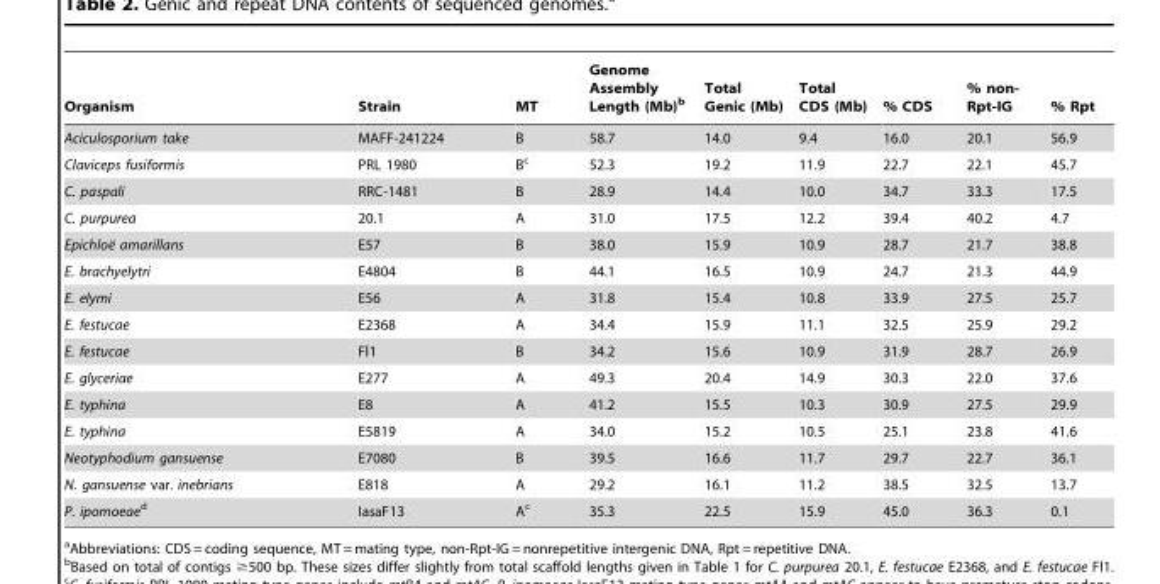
<table><thead><tr><td>Organism</td><td>Strain</td><td>MT</td><td>Genome Assembly Length (Mb)<sup>b</sup></td><td>Total Genic (Mb)</td><td>Total CDS (Mb)</td><td>% CDS</td><td>% non- Rpt-IG</td><td>% Rpt</td></tr></thead><tbody><tr><td>Aciculosporium take</td><td>MAFF-241224</td><td>B</td><td>58.7</td><td>14.0</td><td>9.4</td><td>16.0</td><td>20.1</td><td>56.9</td></tr><tr><td>Claviceps fusiformis</td><td>PRL 1980</td><td>B<sup>c</sup></td><td>52.3</td><td>19.2</td><td>11.9</td><td>22.7</td><td>22.1</td><td>45.7</td></tr><tr><td>C. paspali</td><td>RRC-1481</td><td>B</td><td>28.9</td><td>14.4</td><td>10.0</td><td>34.7</td><td>33.3</td><td>17.5</td></tr><tr><td>C. purpurea</td><td>20.1</td><td>A</td><td>31.0</td><td>17.5</td><td>12.2</td><td>39.4</td><td>40.2</td><td>4.7</td></tr><tr><td>Epichloe¨ amarillans</td><td>E57</td><td>B</td><td>38.0</td><td>15.9</td><td>10.9</td><td>28.7</td><td>21.7</td><td>38.8</td></tr><tr><td>E. brachyelytri</td><td>E4804</td><td>B</td><td>44.1</td><td>16.5</td><td>10.9</td><td>24.7</td><td>21.3</td><td>44.9</td></tr><tr><td>E. elymi</td><td>E56</td><td>A</td><td>31.8</td><td>15.4</td><td>10.8</td><td>33.9</td><td>27.5</td><td>25.7</td></tr><tr><td>E. festucae</td><td>E2368</td><td>A</td><td>34.4</td><td>15.9</td><td>11.1</td><td>32.5</td><td>25.9</td><td>29.2</td></tr><tr><td>E. festucae</td><td>Fl1</td><td>B</td><td>34.2</td><td>15.6</td><td>10.9</td><td>31.9</td><td>28.7</td><td>26.9</td></tr><tr><td>E. glyceriae</td><td>E277</td><td>A</td><td>49.3</td><td>20.4</td><td>14.9</td><td>30.3</td><td>22.0</td><td>37.6</td></tr><tr><td>E. typhina</td><td>E8</td><td>A</td><td>41.2</td><td>15.5</td><td>10.3</td><td>30.9</td><td>27.5</td><td>29.9</td></tr><tr><td>E. typhina</td><td>E5819</td><td>A</td><td>34.0</td><td>15.2</td><td>10.5</td><td>25.1</td><td>23.8</td><td>41.6</td></tr><tr><td>Neotyphodium gansuense</td><td>E7080</td><td>B</td><td>39.5</td><td>16.6</td><td>11.7</td><td>29.7</td><td>22.7</td><td>36.1</td></tr><tr><td>N. gansuense var. inebrians</td><td>E818</td><td>A</td><td>29.2</td><td>16.1</td><td>11.2</td><td>38.5</td><td>32.5</td><td>13.7</td></tr><tr><td>P. ipomoeaed</td><td>IasaF13</td><td>A<sup>c</sup></td><td>35.3</td><td>22.5</td><td>15.9</td><td>45.0</td><td>36.3</td><td>0.1</td></tr></tbody></table>